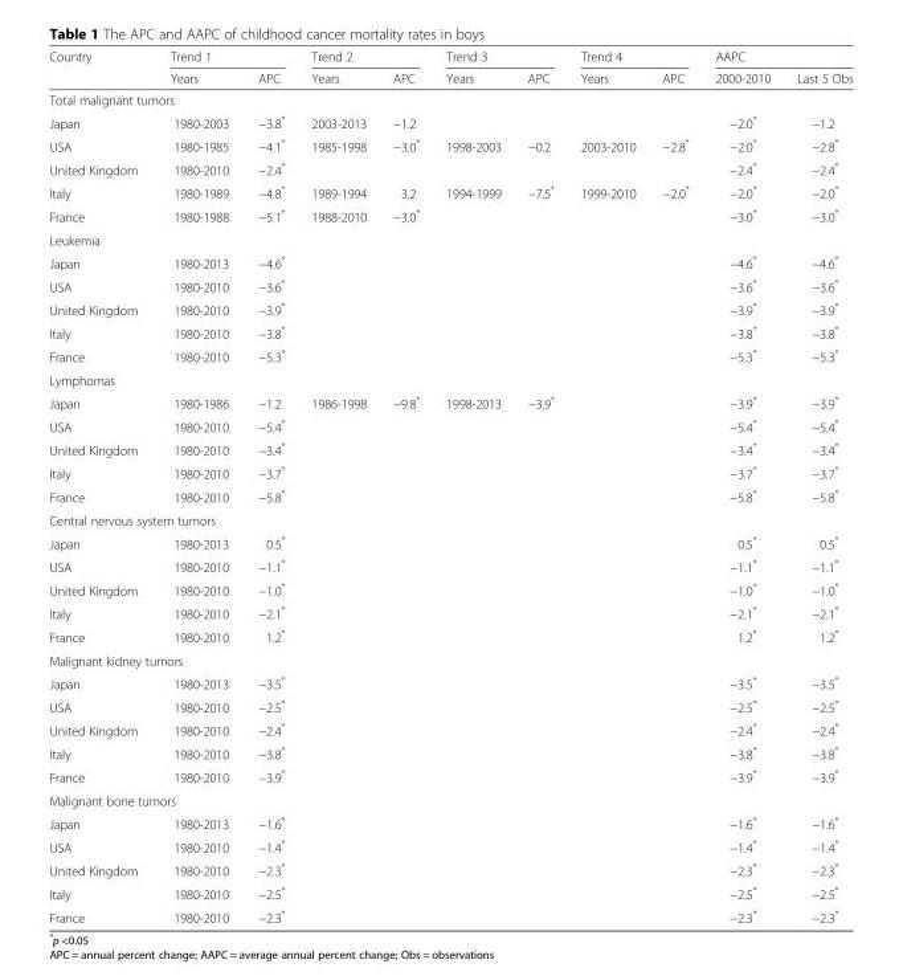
<table><thead><tr><td rowspan="2">Country</td><td colspan="2">Trend 1</td><td colspan="2">Trend 2</td><td colspan="2">Trend 3</td><td colspan="2">Trend 4</td><td colspan="2">AAPC</td></tr><tr><td>Years</td><td>APC</td><td>Years</td><td>APC</td><td>Years</td><td>APC</td><td>Years</td><td>APC</td><td>2000-2010</td><td>Last 5 Obs</td></tr></thead><tbody><tr><td colspan="11">Total malignant tumors</td></tr><tr><td>Japan</td><td>1980-2003</td><td>−3.8*</td><td>2003-2013</td><td>−1.2</td><td></td><td></td><td></td><td></td><td>−2.0*</td><td>−1.2</td></tr><tr><td>USA</td><td>1980-1985</td><td>−4.1*</td><td>1985-1998</td><td>−3.0*</td><td>1998-2003</td><td>−0.2</td><td>2003-2010</td><td>−2.8*</td><td>−2.0*</td><td>−2.8*</td></tr><tr><td>United Kingdom</td><td>1980-2010</td><td>−2.4*</td><td></td><td></td><td></td><td></td><td></td><td></td><td>−2.4*</td><td>−2.4*</td></tr><tr><td>Italy</td><td>1980-1989</td><td>−4.8*</td><td>1989-1994</td><td>3.2</td><td>1994-1999</td><td>−7.5*</td><td>1999-2010</td><td>−2.0*</td><td>−2.0*</td><td>−2.0*</td></tr><tr><td>France</td><td>1980-1988</td><td>−5.1*</td><td>1988-2010</td><td>−3.0*</td><td></td><td></td><td></td><td></td><td>−3.0*</td><td>−3.0*</td></tr><tr><td colspan="11">Leukemia</td></tr><tr><td>Japan</td><td>1980-2013</td><td>−4.6*</td><td></td><td></td><td></td><td></td><td></td><td></td><td>−4.6*</td><td>−4.6*</td></tr><tr><td>USA</td><td>1980-2010</td><td>−3.6*</td><td></td><td></td><td></td><td></td><td></td><td></td><td>−3.6*</td><td>−3.6*</td></tr><tr><td>United Kingdom</td><td>1980-2010</td><td>−3.9*</td><td></td><td></td><td></td><td></td><td></td><td></td><td>−3.9*</td><td>−3.9*</td></tr><tr><td>Italy</td><td>1980-2010</td><td>−3.8*</td><td></td><td></td><td></td><td></td><td></td><td></td><td>−3.8*</td><td>−3.8*</td></tr><tr><td>France</td><td>1980-2010</td><td>−5.3*</td><td></td><td></td><td></td><td></td><td></td><td></td><td>−5.3*</td><td>−5.3*</td></tr><tr><td colspan="11">Lymphomas</td></tr><tr><td>Japan</td><td>1980-1986</td><td>−1.2</td><td>1986-1998</td><td>−9.8*</td><td>1998-2013</td><td>−3.9*</td><td></td><td></td><td>−3.9*</td><td>−3.9*</td></tr><tr><td>USA</td><td>1980-2010</td><td>−5.4*</td><td></td><td></td><td></td><td></td><td></td><td></td><td>−5.4*</td><td>−5.4*</td></tr><tr><td>United Kingdom</td><td>1980-2010</td><td>−3.4*</td><td></td><td></td><td></td><td></td><td></td><td></td><td>−3.4*</td><td>−3.4*</td></tr><tr><td>Italy</td><td>1980-2010</td><td>−3.7*</td><td></td><td></td><td></td><td></td><td></td><td></td><td>−3.7*</td><td>−3.7*</td></tr><tr><td>France</td><td>1980-2010</td><td>−5.8*</td><td></td><td></td><td></td><td></td><td></td><td></td><td>−5.8*</td><td>−5.8*</td></tr><tr><td colspan="11">Central nervous system tumors</td></tr><tr><td>Japan</td><td>1980-2013</td><td>0.5*</td><td></td><td></td><td></td><td></td><td></td><td></td><td>0.5*</td><td>0.5*</td></tr><tr><td>USA</td><td>1980-2010</td><td>−1.1*</td><td></td><td></td><td></td><td></td><td></td><td></td><td>−1.1*</td><td>−1.1*</td></tr><tr><td>United Kingdom</td><td>1980-2010</td><td>−1.0*</td><td></td><td></td><td></td><td></td><td></td><td></td><td>−1.0*</td><td>−1.0*</td></tr><tr><td>Italy</td><td>1980-2010</td><td>−2.1*</td><td></td><td></td><td></td><td></td><td></td><td></td><td>−2.1*</td><td>−2.1*</td></tr><tr><td>France</td><td>1980-2010</td><td>1.2*</td><td></td><td></td><td></td><td></td><td></td><td></td><td>1.2*</td><td>1.2*</td></tr><tr><td colspan="11">Malignant kidney tumors</td></tr><tr><td>Japan</td><td>1980-2013</td><td>−3.5*</td><td></td><td></td><td></td><td></td><td></td><td></td><td>−3.5*</td><td>−3.5*</td></tr><tr><td>USA</td><td>1980-2010</td><td>−2.5*</td><td></td><td></td><td></td><td></td><td></td><td></td><td>−2.5*</td><td>−2.5*</td></tr><tr><td>United Kingdom</td><td>1980-2010</td><td>−2.4*</td><td></td><td></td><td></td><td></td><td></td><td></td><td>−2.4*</td><td>−2.4*</td></tr><tr><td>Italy</td><td>1980-2010</td><td>−3.8*</td><td></td><td></td><td></td><td></td><td></td><td></td><td>−3.8*</td><td>−3.8*</td></tr><tr><td>France</td><td>1980-2010</td><td>−3.9*</td><td></td><td></td><td></td><td></td><td></td><td></td><td>−3.9*</td><td>−3.9*</td></tr><tr><td colspan="11">Malignant bone tumors</td></tr><tr><td>Japan</td><td>1980-2013</td><td>−1.6*</td><td></td><td></td><td></td><td></td><td></td><td></td><td>−1.6*</td><td>−1.6*</td></tr><tr><td>USA</td><td>1980-2010</td><td>−1.4*</td><td></td><td></td><td></td><td></td><td></td><td></td><td>−1.4*</td><td>−1.4*</td></tr><tr><td>United Kingdom</td><td>1980-2010</td><td>−2.3*</td><td></td><td></td><td></td><td></td><td></td><td></td><td>−2.3*</td><td>−2.3*</td></tr><tr><td>Italy</td><td>1980-2010</td><td>−2.5*</td><td></td><td></td><td></td><td></td><td></td><td></td><td>−2.5*</td><td>−2.5*</td></tr><tr><td>France</td><td>1980-2010</td><td>−2.3*</td><td></td><td></td><td></td><td></td><td></td><td></td><td>−2.3*</td><td>−2.3*</td></tr></tbody></table>